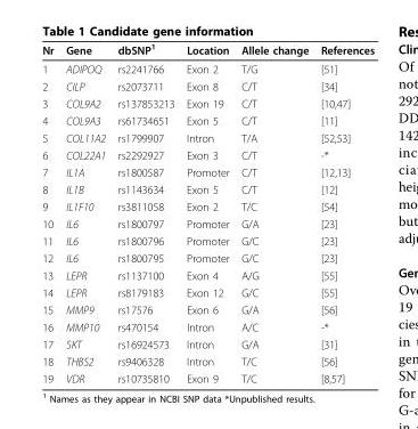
<table><thead><tr><td>Nr</td><td>Gene</td><td>dbSNP<sup>1</sup></td><td>Location</td><td>Allele change</td><td>References</td></tr></thead><tbody><tr><td>1</td><td>ADIPOQ</td><td>rs2241766</td><td>Exon 2</td><td>T/G</td><td>[51]</td></tr><tr><td>2</td><td>CILP</td><td>rs2073711</td><td>Exon 8</td><td>C/T</td><td>[34]</td></tr><tr><td>3</td><td>COL9A2</td><td>rs137853213</td><td>Exon 19</td><td>C/T</td><td>[10,47]</td></tr><tr><td>4</td><td>COL9A3</td><td>rs61734651</td><td>Exon 5</td><td>C/T</td><td>[11]</td></tr><tr><td>5</td><td>COL11A2</td><td>rs1799907</td><td>Intron</td><td>T/A</td><td>[52,53]</td></tr><tr><td>6</td><td>COL22A1</td><td>rs2292927</td><td>Exon 3</td><td>C/T</td><td>-*</td></tr><tr><td>7</td><td>IL1A</td><td>rs1800587</td><td>Promoter</td><td>C/T</td><td>[12,13]</td></tr><tr><td>8</td><td>IL1B</td><td>rs1143634</td><td>Exon 5</td><td>C/T</td><td>[12]</td></tr><tr><td>9</td><td>IL1F10</td><td>rs3811058</td><td>Exon 2</td><td>T/C</td><td>[54]</td></tr><tr><td>10</td><td>IL6</td><td>rs1800797</td><td>Promoter</td><td>G/A</td><td>[23]</td></tr><tr><td>11</td><td>IL6</td><td>rs1800796</td><td>Promoter</td><td>G/C</td><td>[23]</td></tr><tr><td>12</td><td>IL6</td><td>rs1800795</td><td>Promoter</td><td>G/C</td><td>[23]</td></tr><tr><td>13</td><td>LEPR</td><td>rs1137100</td><td>Exon 4</td><td>A/G</td><td>[55]</td></tr><tr><td>14</td><td>LEPR</td><td>rs8179183</td><td>Exon 12</td><td>G/C</td><td>[55]</td></tr><tr><td>15</td><td>MMP9</td><td>rs17576</td><td>Exon 6</td><td>G/A</td><td>[56]</td></tr><tr><td>16</td><td>MMP10</td><td>rs470154</td><td>Intron</td><td>A/C</td><td>-*</td></tr><tr><td>17</td><td>SKT</td><td>rs16924573</td><td>Intron</td><td>G/A</td><td>[31]</td></tr><tr><td>18</td><td>THBS2</td><td>rs9406328</td><td>Intron</td><td>T/C</td><td>[56]</td></tr><tr><td>19</td><td>VDR</td><td>rs10735810</td><td>Exon 9</td><td>T/C</td><td>[8,57]</td></tr></tbody></table>